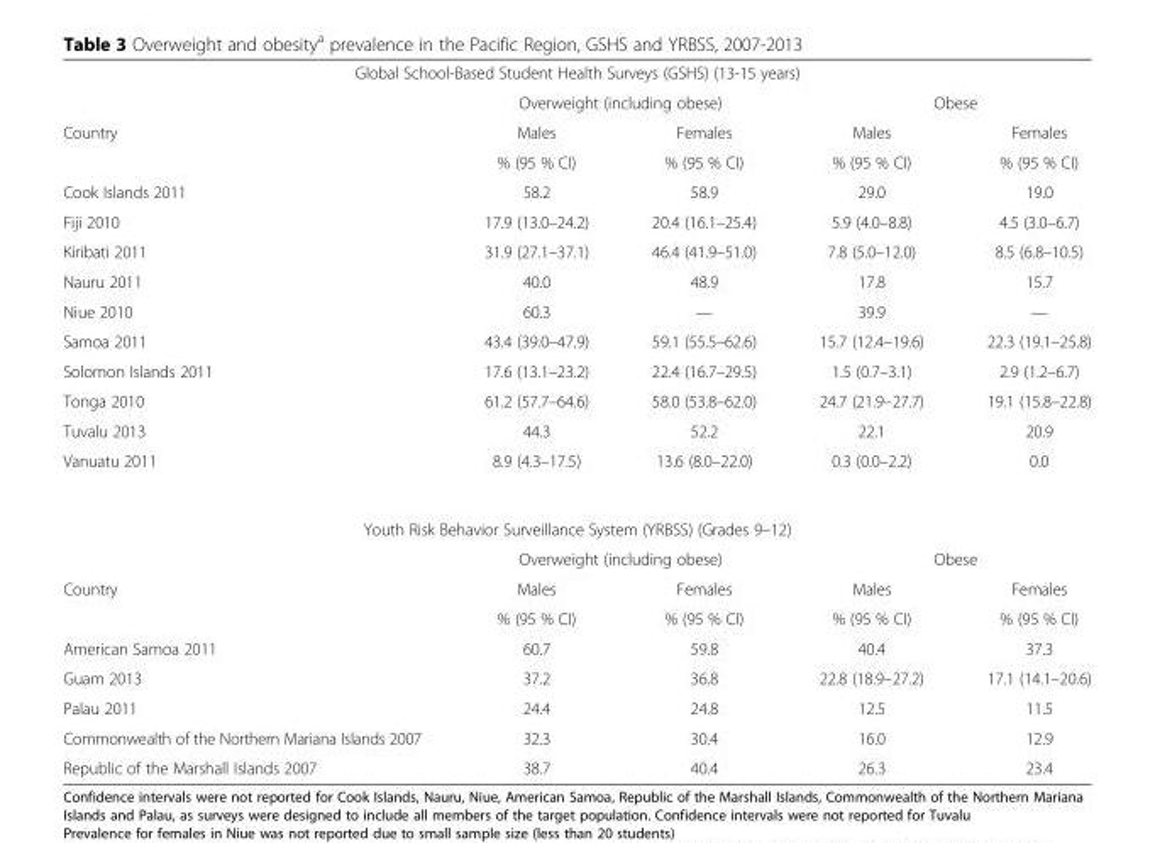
<table><tbody><tr><td colspan="5">Global School-Based Student Health Surveys (GSHS) (13-15 years)</td></tr><tr><td></td><td colspan="2">Overweight (including obese)</td><td colspan="2">Obese</td></tr><tr><td rowspan="2">Country</td><td>Males</td><td>Females</td><td>Males</td><td>Females</td></tr><tr><td>% (95 % CI)</td><td>% (95 % CI)</td><td>% (95 % CI)</td><td>% (95 % CI)</td></tr><tr><td>Cook Islands 2011</td><td>58.2</td><td>58.9</td><td>29.0</td><td>19.0</td></tr><tr><td>Fiji 2010</td><td>17.9 (13.0–24.2)</td><td>20.4 (16.1–25.4)</td><td>5.9 (4.0–8.8)</td><td>4.5 (3.0–6.7)</td></tr><tr><td>Kiribati 2011</td><td>31.9 (27.1–37.1)</td><td>46.4 (41.9–51.0)</td><td>7.8 (5.0–12.0)</td><td>8.5 (6.8–10.5)</td></tr><tr><td>Nauru 2011</td><td>40.0</td><td>48.9</td><td>17.8</td><td>15.7</td></tr><tr><td>Niue 2010</td><td>60.3</td><td>—</td><td>39.9</td><td>—</td></tr><tr><td>Samoa 2011</td><td>43.4 (39.0–47.9)</td><td>59.1 (55.5–62.6)</td><td>15.7 (12.4–19.6)</td><td>22.3 (19.1–25.8)</td></tr><tr><td>Solomon Islands 2011</td><td>17.6 (13.1–23.2)</td><td>22.4 (16.7–29.5)</td><td>1.5 (0.7–3.1)</td><td>2.9 (1.2–6.7)</td></tr><tr><td>Tonga 2010</td><td>61.2 (57.7–64.6)</td><td>58.0 (53.8–62.0)</td><td>24.7 (21.9–27.7)</td><td>19.1 (15.8–22.8)</td></tr><tr><td>Tuvalu 2013</td><td>44.3</td><td>52.2</td><td>22.1</td><td>20.9</td></tr><tr><td>Vanuatu 2011</td><td>8.9 (4.3–17.5)</td><td>13.6 (8.0–22.0)</td><td>0.3 (0.0–2.2)</td><td>0.0</td></tr><tr><td colspan="5">Youth Risk Behavior Surveillance System (YRBSS) (Grades 9–12)</td></tr><tr><td></td><td colspan="2">Overweight (including obese)</td><td colspan="2">Obese</td></tr><tr><td rowspan="2">Country</td><td>Males</td><td>Females</td><td>Males</td><td>Females</td></tr><tr><td>% (95 % CI)</td><td>% (95 % CI)</td><td>% (95 % CI)</td><td>% (95 % CI)</td></tr><tr><td>American Samoa 2011</td><td>60.7</td><td>59.8</td><td>40.4</td><td>37.3</td></tr><tr><td>Guam 2013</td><td>37.2</td><td>36.8</td><td>22.8 (18.9–27.2)</td><td>17.1 (14.1–20.6)</td></tr><tr><td>Palau 2011</td><td>24.4</td><td>24.8</td><td>12.5</td><td>11.5</td></tr><tr><td>Commonwealth of the Northern Mariana Islands 2007</td><td>32.3</td><td>30.4</td><td>16.0</td><td>12.9</td></tr><tr><td>Republic of the Marshall Islands 2007</td><td>38.7</td><td>40.4</td><td>26.3</td><td>23.4</td></tr></tbody></table>